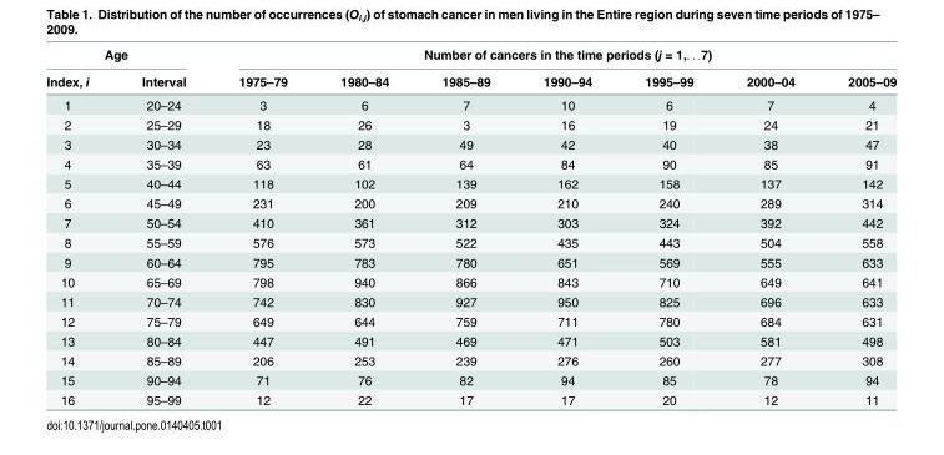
<table><thead><tr><td colspan="2">Age</td><td colspan="7">Number of cancers in the time periods (j = 1,. . .7)</td></tr><tr><td>Index, i</td><td>Interval</td><td>1975–79</td><td>1980–84</td><td>1985–89</td><td>1990–94</td><td>1995–99</td><td>2000–04</td><td>2005–09</td></tr></thead><tbody><tr><td>1</td><td>20–24</td><td>3</td><td>6</td><td>7</td><td>10</td><td>6</td><td>7</td><td>4</td></tr><tr><td>2</td><td>25–29</td><td>18</td><td>26</td><td>3</td><td>16</td><td>19</td><td>24</td><td>21</td></tr><tr><td>3</td><td>30–34</td><td>23</td><td>28</td><td>49</td><td>42</td><td>40</td><td>38</td><td>47</td></tr><tr><td>4</td><td>35–39</td><td>63</td><td>61</td><td>64</td><td>84</td><td>90</td><td>85</td><td>91</td></tr><tr><td>5</td><td>40–44</td><td>118</td><td>102</td><td>139</td><td>162</td><td>158</td><td>137</td><td>142</td></tr><tr><td>6</td><td>45–49</td><td>231</td><td>200</td><td>209</td><td>210</td><td>240</td><td>289</td><td>314</td></tr><tr><td>7</td><td>50–54</td><td>410</td><td>361</td><td>312</td><td>303</td><td>324</td><td>392</td><td>442</td></tr><tr><td>8</td><td>55–59</td><td>576</td><td>573</td><td>522</td><td>435</td><td>443</td><td>504</td><td>558</td></tr><tr><td>9</td><td>60–64</td><td>795</td><td>783</td><td>780</td><td>651</td><td>569</td><td>555</td><td>633</td></tr><tr><td>10</td><td>65–69</td><td>798</td><td>940</td><td>866</td><td>843</td><td>710</td><td>649</td><td>641</td></tr><tr><td>11</td><td>70–74</td><td>742</td><td>830</td><td>927</td><td>950</td><td>825</td><td>696</td><td>633</td></tr><tr><td>12</td><td>75–79</td><td>649</td><td>644</td><td>759</td><td>711</td><td>780</td><td>684</td><td>631</td></tr><tr><td>13</td><td>80–84</td><td>447</td><td>491</td><td>469</td><td>471</td><td>503</td><td>581</td><td>498</td></tr><tr><td>14</td><td>85–89</td><td>206</td><td>253</td><td>239</td><td>276</td><td>260</td><td>277</td><td>308</td></tr><tr><td>15</td><td>90–94</td><td>71</td><td>76</td><td>82</td><td>94</td><td>85</td><td>78</td><td>94</td></tr><tr><td>16</td><td>95–99</td><td>12</td><td>22</td><td>17</td><td>17</td><td>20</td><td>12</td><td>11</td></tr></tbody></table>